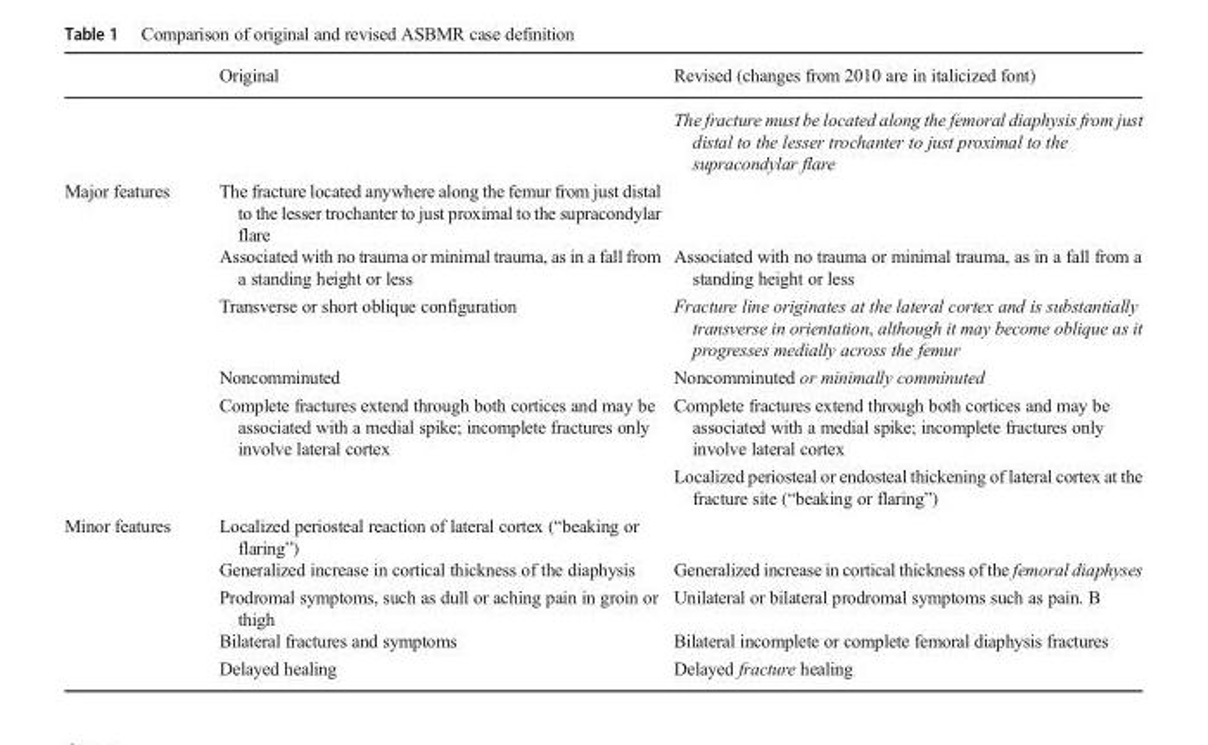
<table><thead><tr><td></td><td>Original</td><td>Revised (changes from 2010 are in italicized font)</td></tr></thead><tbody><tr><td></td><td></td><td>The fracture must be located along the femoral diaphysis from just distal to the lesser trochanter to just proximal to the supracondylar flare</td></tr><tr><td rowspan="6">Major features</td><td>The fracture located anywhere along the femur from just distal to the lesser trochanter to just proximal to the supracondylar flare</td><td></td></tr><tr><td>Associated with no trauma or minimal trauma, as in a fall from a standing height or less</td><td>Associated with no trauma or minimal trauma, as in a fall from a standing height or less</td></tr><tr><td>Transverse or short oblique configuration</td><td>Fracture line originates at the lateral cortex and is substantially transverse in orientation, although it may become oblique as it progresses medially across the femur</td></tr><tr><td>Noncomminuted</td><td>Noncomminuted or minimally comminuted</td></tr><tr><td>Complete fractures extend through both cortices and may be associated with a medial spike; incomplete fractures only involve lateral cortex</td><td>Complete fractures extend through both cortices and may be associated with a medial spike; incomplete fractures only involve lateral cortex</td></tr><tr><td></td><td>Localized periosteal or endosteal thickening of lateral cortex at the fracture site (“beaking or flaring”)</td></tr><tr><td rowspan="5">Minor features</td><td>Localized periosteal reaction of lateral cortex (“beaking or flaring”)</td><td></td></tr><tr><td>Generalized increase in cortical thickness of the diaphysis</td><td>Generalized increase in cortical thickness of the femoral diaphyses</td></tr><tr><td>Prodromal symptoms, such as dull or aching pain in groin or thigh</td><td>Unilateral or bilateral prodromal symptoms such as pain. B</td></tr><tr><td>Bilateral fractures and symptoms</td><td>Bilateral incomplete or complete femoral diaphysis fractures</td></tr><tr><td>Delayed healing</td><td>Delayed fracture healing</td></tr></tbody></table>